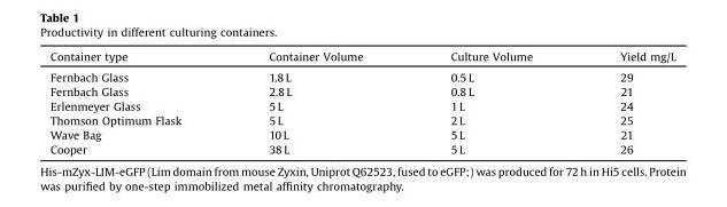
<table><thead><tr><td>Container type</td><td>Container Volume</td><td>Culture Volume</td><td>Yield mg/L</td></tr></thead><tbody><tr><td>Fernbach Glass</td><td>1.8 L</td><td>0.5 L</td><td>29</td></tr><tr><td>Fernbach Glass</td><td>2.8 L</td><td>0.8 L</td><td>21</td></tr><tr><td>Erlenmeyer Glass</td><td>5 L</td><td>1 L</td><td>24</td></tr><tr><td>Thomson Optimum Flask</td><td>5 L</td><td>2 L</td><td>25</td></tr><tr><td>Wave Bag</td><td>10 L</td><td>5 L</td><td>21</td></tr><tr><td>Cooper</td><td>38 L</td><td>5 L</td><td>26</td></tr></tbody></table>